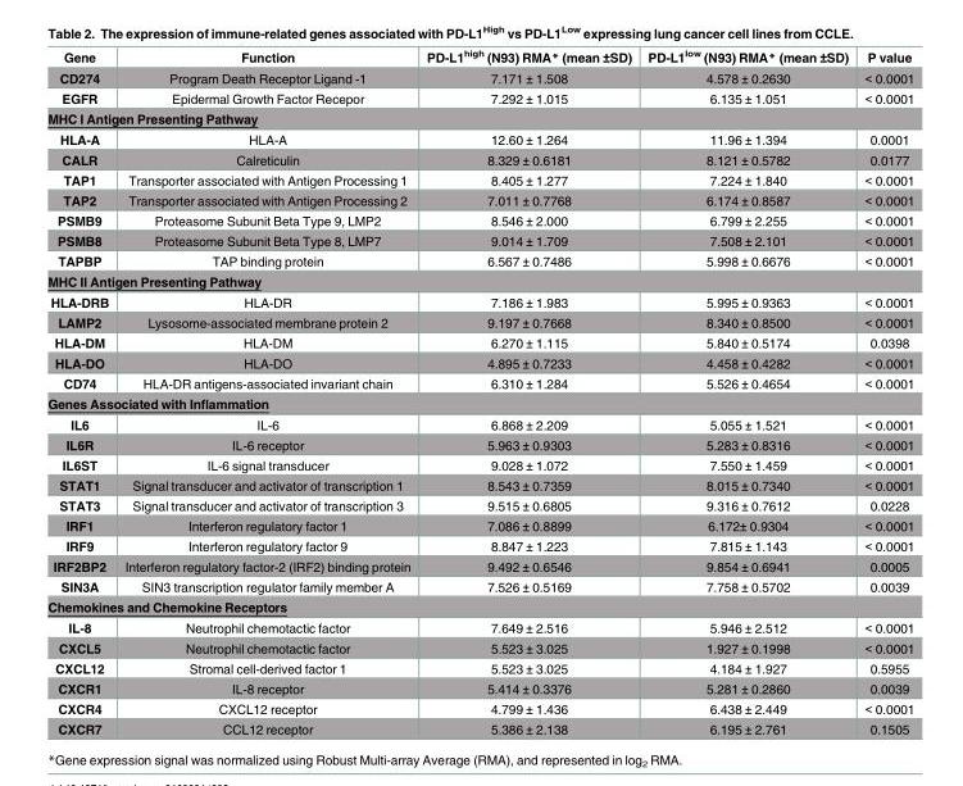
<table><thead><tr><td>Gene</td><td>Function</td><td>PD-L1<sup>high</sup> (N93) RMA* (mean ±SD)</td><td>PD-L1<sup>low</sup> (N93) RMA* (mean ±SD)</td><td>P value</td></tr></thead><tbody><tr><td>CD274</td><td>Program Death Receptor Ligand -1</td><td>7.171 ± 1.508</td><td>4.578 ± 0.2630</td><td>&lt; 0.0001</td></tr><tr><td>EGFR</td><td>Epidermal Growth Factor Recepor</td><td>7.292 ± 1.015</td><td>6.135 ± 1.051</td><td>&lt; 0.0001</td></tr><tr><td colspan="5">MHC I Antigen Presenting Pathway</td></tr><tr><td>HLA-A</td><td>HLA-A</td><td>12.60 ± 1.264</td><td>11.96 ± 1.394</td><td>0.0001</td></tr><tr><td>CALR</td><td>Calreticulin</td><td>8.329 ± 0.6181</td><td>8.121 ± 0.5782</td><td>0.0177</td></tr><tr><td>TAP1</td><td>Transporter associated with Antigen Processing 1</td><td>8.405 ± 1.277</td><td>7.224 ± 1.840</td><td>&lt; 0.0001</td></tr><tr><td>TAP2</td><td>Transporter associated with Antigen Processing 2</td><td>7.011 ± 0.7768</td><td>6.174 ± 0.8587</td><td>&lt; 0.0001</td></tr><tr><td>PSMB9</td><td>Proteasome Subunit Beta Type 9, LMP2</td><td>8.546 ± 2.000</td><td>6.799 ± 2.255</td><td>&lt; 0.0001</td></tr><tr><td>PSMB8</td><td>Proteasome Subunit Beta Type 8, LMP7</td><td>9.014 ± 1.709</td><td>7.508 ± 2.101</td><td>&lt; 0.0001</td></tr><tr><td>TAPBP</td><td>TAP binding protein</td><td>6.567 ± 0.7486</td><td>5.998 ± 0.6676</td><td>&lt; 0.0001</td></tr><tr><td colspan="5">MHC II Antigen Presenting Pathway</td></tr><tr><td>HLA-DRB</td><td>HLA-DR</td><td>7.186 ± 1.983</td><td>5.995 ± 0.9363</td><td>&lt; 0.0001</td></tr><tr><td>LAMP2</td><td>Lysosome-associated membrane protein 2</td><td>9.197 ± 0.7668</td><td>8.340 ± 0.8500</td><td>&lt; 0.0001</td></tr><tr><td>HLA-DM</td><td>HLA-DM</td><td>6.270 ± 1.115</td><td>5.840 ± 0.5174</td><td>0.0398</td></tr><tr><td>HLA-DO</td><td>HLA-DO</td><td>4.895 ± 0.7233</td><td>4.458 ± 0.4282</td><td>&lt; 0.0001</td></tr><tr><td>CD74</td><td>HLA-DR antigens-associated invariant chain</td><td>6.310 ± 1.284</td><td>5.526 ± 0.4654</td><td>&lt; 0.0001</td></tr><tr><td colspan="5">Genes Associated with Inflammation</td></tr><tr><td>IL6</td><td>IL-6</td><td>6.868 ± 2.209</td><td>5.055 ± 1.521</td><td>&lt; 0.0001</td></tr><tr><td>IL6R</td><td>IL-6 receptor</td><td>5.963 ± 0.9303</td><td>5.283 ± 0.8316</td><td>&lt; 0.0001</td></tr><tr><td>IL6ST</td><td>IL-6 signal transducer</td><td>9.028 ± 1.072</td><td>7.550 ± 1.459</td><td>&lt; 0.0001</td></tr><tr><td>STAT1</td><td>Signal transducer and activator of transcription 1</td><td>8.543 ± 0.7359</td><td>8.015 ± 0.7340</td><td>&lt; 0.0001</td></tr><tr><td>STAT3</td><td>Signal transducer and activator of transcription 3</td><td>9.515 ± 0.6805</td><td>9.316 ± 0.7612</td><td>0.0228</td></tr><tr><td>IRF1</td><td>Interferon regulatory factor 1</td><td>7.086 ± 0.8899</td><td>6.172± 0.9304</td><td>&lt; 0.0001</td></tr><tr><td>IRF9</td><td>Interferon regulatory factor 9</td><td>8.847 ± 1.223</td><td>7.815 ± 1.143</td><td>&lt; 0.0001</td></tr><tr><td>IRF2BP2</td><td>Interferon regulatory factor-2 (IRF2) binding protein</td><td>9.492 ± 0.6546</td><td>9.854 ± 0.6941</td><td>0.0005</td></tr><tr><td>SIN3A</td><td>SIN3 transcription regulator family member A</td><td>7.526 ± 0.5169</td><td>7.758 ± 0.5702</td><td>0.0039</td></tr><tr><td colspan="5">Chemokines and Chemokine Receptors</td></tr><tr><td>IL-8</td><td>Neutrophil chemotactic factor</td><td>7.649 ± 2.516</td><td>5.946 ± 2.512</td><td>&lt; 0.0001</td></tr><tr><td>CXCL5</td><td>Neutrophil chemotactic factor</td><td>5.523 ± 3.025</td><td>1.927 ± 0.1998</td><td>&lt; 0.0001</td></tr><tr><td>CXCL12</td><td>Stromal cell-derived factor 1</td><td>5.523 ± 3.025</td><td>4.184 ± 1.927</td><td>0.5955</td></tr><tr><td>CXCR1</td><td>IL-8 receptor</td><td>5.414 ± 0.3376</td><td>5.281 ± 0.2860</td><td>0.0039</td></tr><tr><td>CXCR4</td><td>CXCL12 receptor</td><td>4.799 ± 1.436</td><td>6.438 ± 2.449</td><td>&lt; 0.0001</td></tr><tr><td>CXCR7</td><td>CCL12 receptor</td><td>5.386 ± 2.138</td><td>6.195 ± 2.761</td><td>0.1505</td></tr></tbody></table>